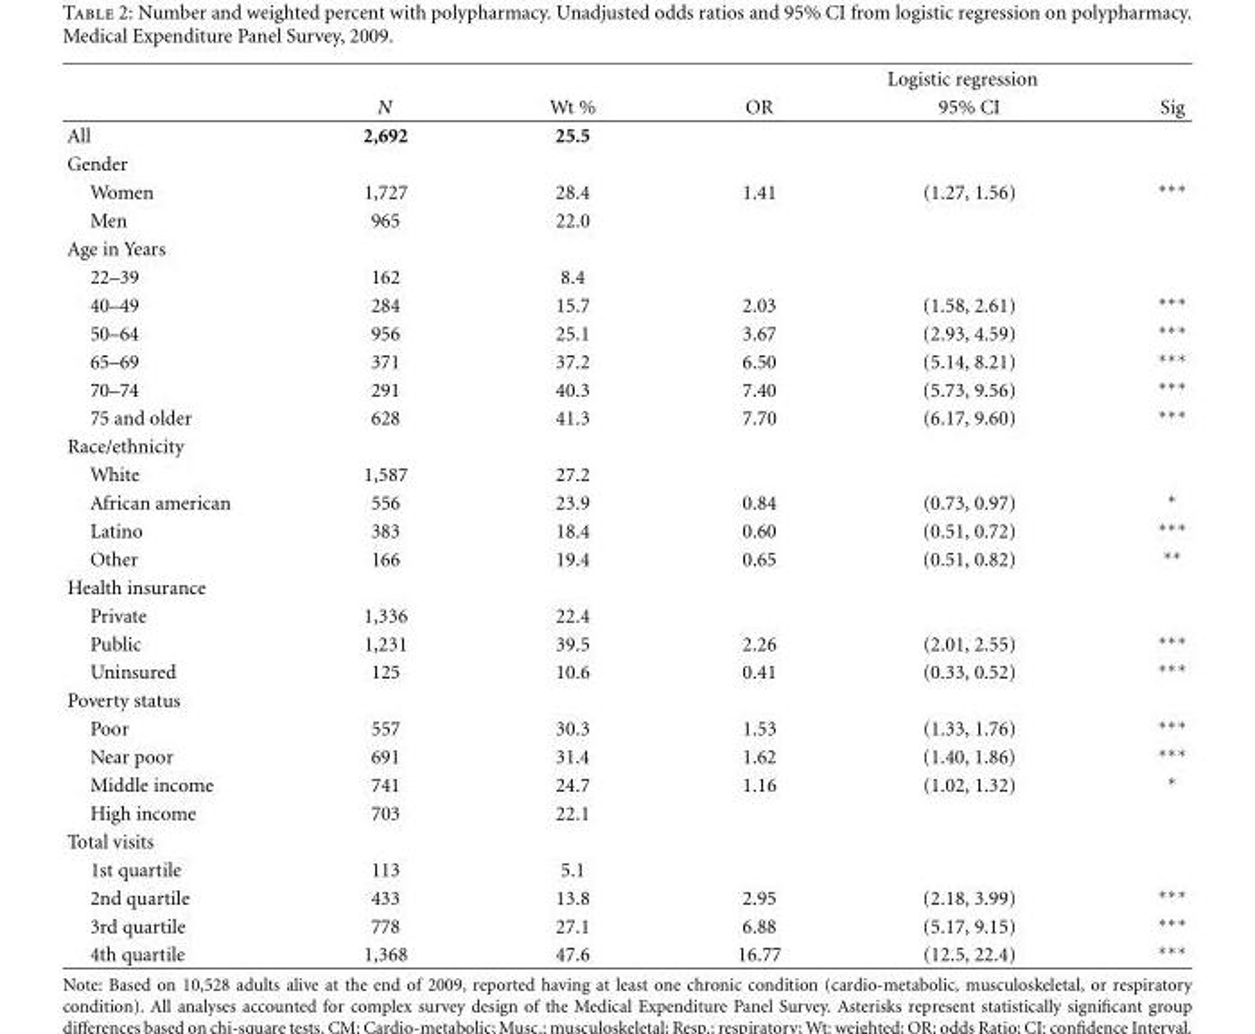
<table><thead><tr><td rowspan="2"></td><td rowspan="2">N</td><td rowspan="2">Wt %</td><td colspan="3">Logistic regression</td></tr><tr><td>OR</td><td>95% CI</td><td>Sig</td></tr></thead><tbody><tr><td>All</td><td>2,692</td><td>25.5</td><td></td><td></td><td></td></tr><tr><td colspan="6">Gender</td></tr><tr><td>Women</td><td>1,727</td><td>28.4</td><td>1.41</td><td>(1.27, 1.56)</td><td>∗∗∗</td></tr><tr><td>Men</td><td>965</td><td>22.0</td><td></td><td></td><td></td></tr><tr><td colspan="6">Age in Years</td></tr><tr><td>22–39</td><td>162</td><td>8.4</td><td></td><td></td><td></td></tr><tr><td>40–49</td><td>284</td><td>15.7</td><td>2.03</td><td>(1.58, 2.61)</td><td>∗∗∗</td></tr><tr><td>50–64</td><td>956</td><td>25.1</td><td>3.67</td><td>(2.93, 4.59)</td><td>∗∗∗</td></tr><tr><td>65–69</td><td>371</td><td>37.2</td><td>6.50</td><td>(5.14, 8.21)</td><td>∗∗∗</td></tr><tr><td>70–74</td><td>291</td><td>40.3</td><td>7.40</td><td>(5.73, 9.56)</td><td>∗∗∗</td></tr><tr><td>75 and older</td><td>628</td><td>41.3</td><td>7.70</td><td>(6.17, 9.60)</td><td>∗∗∗</td></tr><tr><td colspan="6">Race/ethnicity</td></tr><tr><td>White</td><td>1,587</td><td>27.2</td><td></td><td></td><td></td></tr><tr><td>African american</td><td>556</td><td>23.9</td><td>0.84</td><td>(0.73, 0.97)</td><td>∗</td></tr><tr><td>Latino</td><td>383</td><td>18.4</td><td>0.60</td><td>(0.51, 0.72)</td><td>∗∗∗</td></tr><tr><td>Other</td><td>166</td><td>19.4</td><td>0.65</td><td>(0.51, 0.82)</td><td>∗∗</td></tr><tr><td colspan="6">Health insurance</td></tr><tr><td>Private</td><td>1,336</td><td>22.4</td><td></td><td></td><td></td></tr><tr><td>Public</td><td>1,231</td><td>39.5</td><td>2.26</td><td>(2.01, 2.55)</td><td>∗∗∗</td></tr><tr><td>Uninsured</td><td>125</td><td>10.6</td><td>0.41</td><td>(0.33, 0.52)</td><td>∗∗∗</td></tr><tr><td colspan="6">Poverty status</td></tr><tr><td>Poor</td><td>557</td><td>30.3</td><td>1.53</td><td>(1.33, 1.76)</td><td>∗∗∗</td></tr><tr><td>Near poor</td><td>691</td><td>31.4</td><td>1.62</td><td>(1.40, 1.86)</td><td>∗∗∗</td></tr><tr><td>Middle income</td><td>741</td><td>24.7</td><td>1.16</td><td>(1.02, 1.32)</td><td>∗</td></tr><tr><td>High income</td><td>703</td><td>22.1</td><td></td><td></td><td></td></tr><tr><td colspan="6">Total visits</td></tr><tr><td>1st quartile</td><td>113</td><td>5.1</td><td></td><td></td><td></td></tr><tr><td>2nd quartile</td><td>433</td><td>13.8</td><td>2.95</td><td>(2.18, 3.99)</td><td>∗∗∗</td></tr><tr><td>3rd quartile</td><td>778</td><td>27.1</td><td>6.88</td><td>(5.17, 9.15)</td><td>∗∗∗</td></tr><tr><td>4th quartile</td><td>1,368</td><td>47.6</td><td>16.77</td><td>(12.5, 22.4)</td><td>∗∗∗</td></tr></tbody></table>